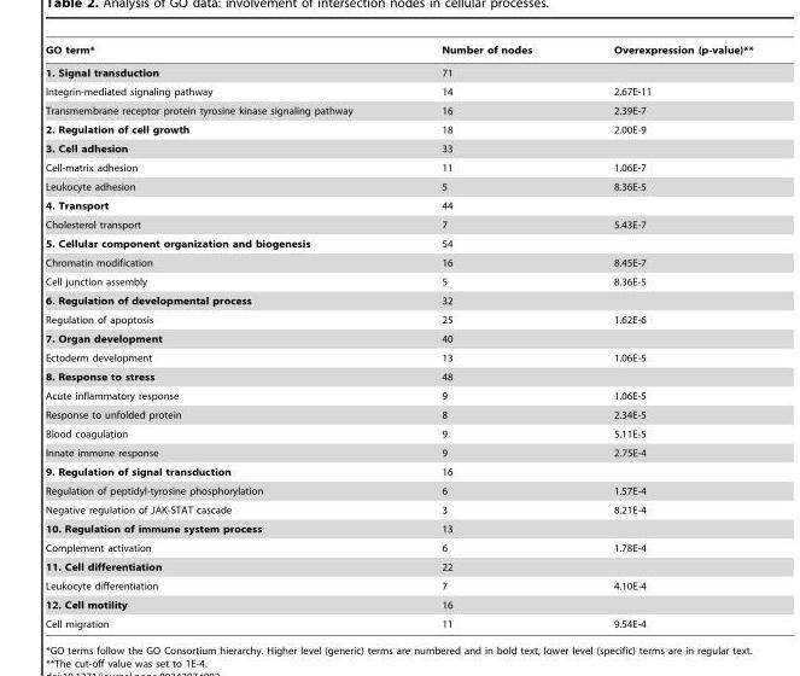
<table><thead><tr><td>GO term*</td><td>Number of nodes</td><td>Overexpression (p-value)**</td></tr></thead><tbody><tr><td>1. Signal transduction</td><td>71</td><td></td></tr><tr><td>Integrin-mediated signaling pathway</td><td>14</td><td>2.67E-11</td></tr><tr><td>Transmembrane receptor protein tyrosine kinase signaling pathway</td><td>16</td><td>2.39E-7</td></tr><tr><td>2. Regulation of cell growth</td><td>18</td><td>2.00E-9</td></tr><tr><td>3. Cell adhesion</td><td>33</td><td></td></tr><tr><td>Cell-matrix adhesion</td><td>11</td><td>1.06E-7</td></tr><tr><td>Leukocyte adhesion</td><td>5</td><td>8.36E-5</td></tr><tr><td>4. Transport</td><td>44</td><td></td></tr><tr><td>Cholesterol transport</td><td>7</td><td>5.43E-7</td></tr><tr><td>5. Cellular component organization and biogenesis</td><td>54</td><td></td></tr><tr><td>Chromatin modification</td><td>16</td><td>8.45E-7</td></tr><tr><td>Cell junction assembly</td><td>5</td><td>8.36E-5</td></tr><tr><td>6. Regulation of developmental process</td><td>32</td><td></td></tr><tr><td>Regulation of apoptosis</td><td>25</td><td>1.62E-6</td></tr><tr><td>7. Organ development</td><td>40</td><td></td></tr><tr><td>Ectoderm development</td><td>13</td><td>1.06E-5</td></tr><tr><td>8. Response to stress</td><td>48</td><td></td></tr><tr><td>Acute inflammatory response</td><td>9</td><td>1.06E-5</td></tr><tr><td>Response to unfolded protein</td><td>8</td><td>2.34E-5</td></tr><tr><td>Blood coagulation</td><td>9</td><td>5.11E-5</td></tr><tr><td>Innate immune response</td><td>9</td><td>2.75E-4</td></tr><tr><td>9. Regulation of signal transduction</td><td>16</td><td></td></tr><tr><td>Regulation of peptidyl-tyrosine phosphorylation</td><td>6</td><td>1.57E-4</td></tr><tr><td>Negative regulation of JAK-STAT cascade</td><td>3</td><td>8.21E-4</td></tr><tr><td>10. Regulation of immune system process</td><td>13</td><td></td></tr><tr><td>Complement activation</td><td>6</td><td>1.78E-4</td></tr><tr><td>11. Cell differentiation</td><td>22</td><td></td></tr><tr><td>Leukocyte differentiation</td><td>7</td><td>4.10E-4</td></tr><tr><td>12. Cell motility</td><td>16</td><td></td></tr><tr><td>Cell migration</td><td>11</td><td>9.54E-4</td></tr></tbody></table>